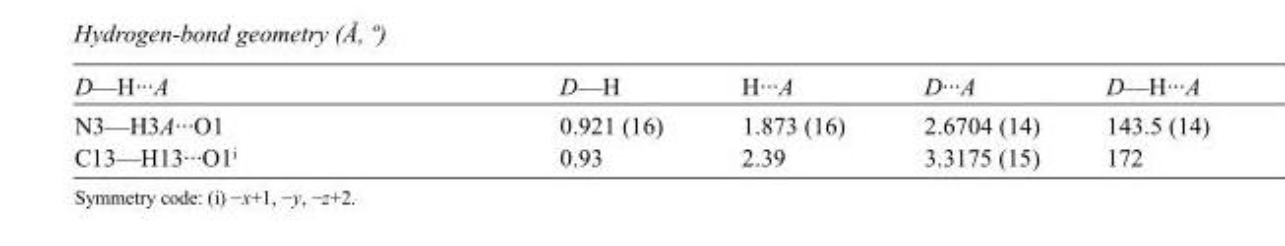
<table><tbody><tr><td>D—H···A</td><td>D—H</td><td>H···A</td><td>D···A</td><td>D—H···A</td></tr><tr><td>N3—H3A···O1</td><td>0.921 (16)</td><td>1.873 (16)</td><td>2.6704 (14)</td><td>143.5 (14)</td></tr><tr><td>C13—H13···O1<sup>i</sup></td><td>0.93</td><td>2.39</td><td>3.3175 (15)</td><td>172</td></tr></tbody></table>